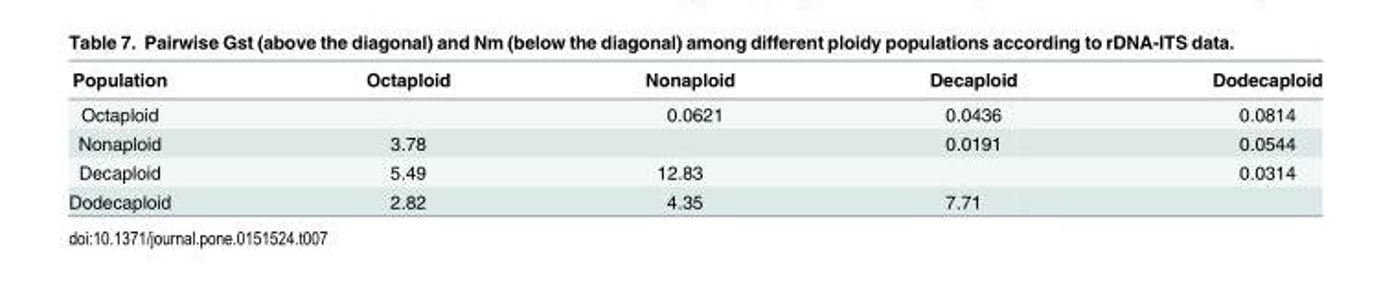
<table><thead><tr><td>Population</td><td>Octaploid</td><td>Nonaploid</td><td>Decaploid</td><td>Dodecaploid</td></tr></thead><tbody><tr><td>Octaploid</td><td></td><td>0.0621</td><td>0.0436</td><td>0.0814</td></tr><tr><td>Nonaploid</td><td>3.78</td><td></td><td>0.0191</td><td>0.0544</td></tr><tr><td>Decaploid</td><td>5.49</td><td>12.83</td><td></td><td>0.0314</td></tr><tr><td>Dodecaploid</td><td>2.82</td><td>4.35</td><td>7.71</td><td></td></tr></tbody></table>